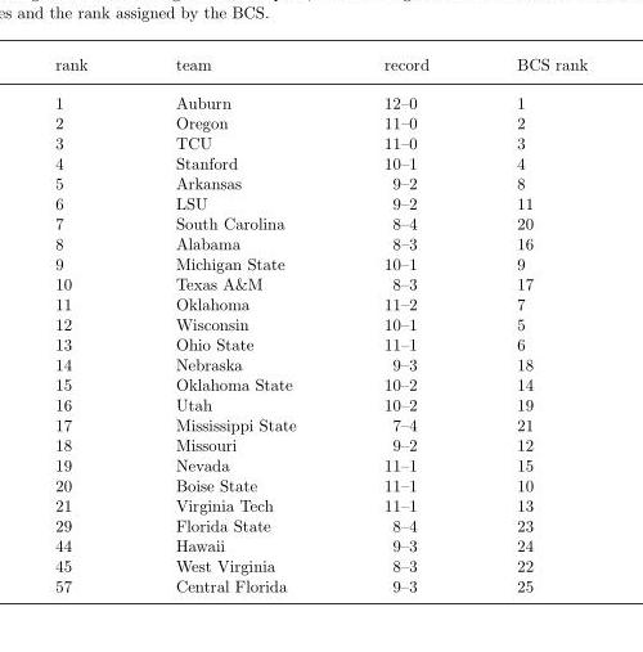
<table><thead><tr><td>rank</td><td>team</td><td>record</td><td>BCS rank</td></tr></thead><tbody><tr><td>1</td><td>Auburn</td><td>12–0</td><td>1</td></tr><tr><td>2</td><td>Oregon</td><td>11–0</td><td>2</td></tr><tr><td>3</td><td>TCU</td><td>11–0</td><td>3</td></tr><tr><td>4</td><td>Stanford</td><td>10–1</td><td>4</td></tr><tr><td>5</td><td>Arkansas</td><td>9–2</td><td>8</td></tr><tr><td>6</td><td>LSU</td><td>9–2</td><td>11</td></tr><tr><td>7</td><td>South Carolina</td><td>8–4</td><td>20</td></tr><tr><td>8</td><td>Alabama</td><td>8–3</td><td>16</td></tr><tr><td>9</td><td>Michigan State</td><td>10–1</td><td>9</td></tr><tr><td>10</td><td>Texas A&amp;M</td><td>8–3</td><td>17</td></tr><tr><td>11</td><td>Oklahoma</td><td>11–2</td><td>7</td></tr><tr><td>12</td><td>Wisconsin</td><td>10–1</td><td>5</td></tr><tr><td>13</td><td>Ohio State</td><td>11–1</td><td>6</td></tr><tr><td>14</td><td>Nebraska</td><td>9–3</td><td>18</td></tr><tr><td>15</td><td>Oklahoma State</td><td>10–2</td><td>14</td></tr><tr><td>16</td><td>Utah</td><td>10–2</td><td>19</td></tr><tr><td>17</td><td>Mississippi State</td><td>7–4</td><td>21</td></tr><tr><td>18</td><td>Missouri</td><td>9–2</td><td>12</td></tr><tr><td>19</td><td>Nevada</td><td>11–1</td><td>15</td></tr><tr><td>20</td><td>Boise State</td><td>11–1</td><td>10</td></tr><tr><td>21</td><td>Virginia Tech</td><td>11–1</td><td>13</td></tr><tr><td>29</td><td>Florida State</td><td>8–4</td><td>23</td></tr><tr><td>44</td><td>Hawaii</td><td>9–3</td><td>24</td></tr><tr><td>45</td><td>West Virginia</td><td>8–3</td><td>22</td></tr><tr><td>57</td><td>Central Florida</td><td>9–3</td><td>25</td></tr></tbody></table>